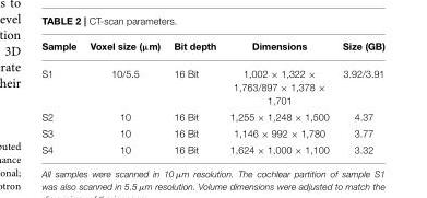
<table><thead><tr><td>Sample</td><td>Voxel size (µm)</td><td>Bit depth</td><td>Dimensions</td><td>Size (GB)</td></tr></thead><tbody><tr><td>S1</td><td>10/5.5</td><td>16 Bit</td><td>1,002 × 1,322 × 1,763/897 × 1,378 × 1,701</td><td>3.92/3.91</td></tr><tr><td>S2</td><td>10</td><td>16 Bit</td><td>1,255 × 1,248 × 1,500</td><td>4.37</td></tr><tr><td>S3</td><td>10</td><td>16 Bit</td><td>1,146 × 992 × 1,780</td><td>3.77</td></tr><tr><td>S4</td><td>10</td><td>16 Bit</td><td>1,624 × 1,000 × 1,100</td><td>3.32</td></tr></tbody></table>